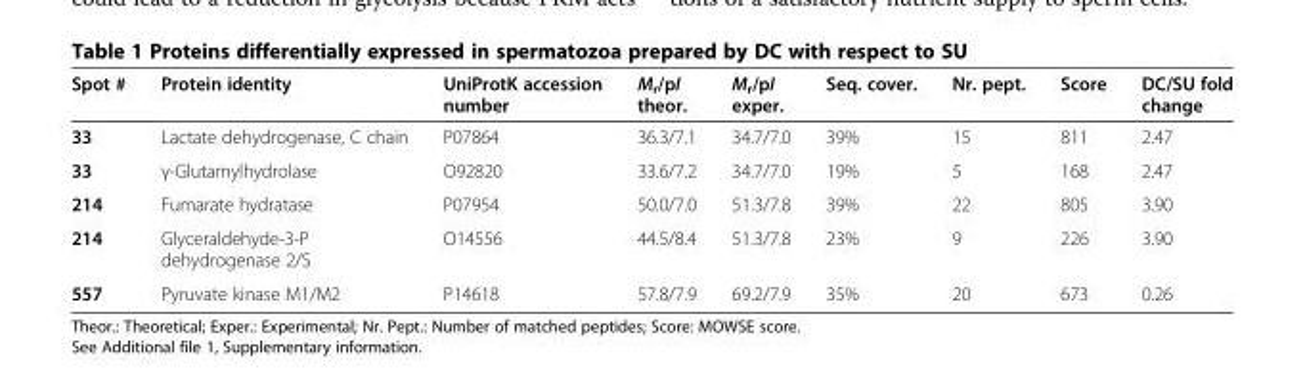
<table><thead><tr><td>Spot #</td><td>Protein identity</td><td>UniProtK accession number</td><td>M<sub>r</sub>/pI theor.</td><td>M<sub>r</sub>/pI exper.</td><td>Seq. cover.</td><td>Nr. pept.</td><td>Score</td><td>DC/SU fold change</td></tr></thead><tbody><tr><td>33</td><td>Lactate dehydrogenase, C chain</td><td>P07864</td><td>36.3/7.1</td><td>34.7/7.0</td><td>39%</td><td>15</td><td>811</td><td>2.47</td></tr><tr><td>33</td><td>γ-Glutamylhydrolase</td><td>O92820</td><td>33.6/7.2</td><td>34.7/7.0</td><td>19%</td><td>5</td><td>168</td><td>2.47</td></tr><tr><td>214</td><td>Fumarate hydratase</td><td>P07954</td><td>50.0/7.0</td><td>51.3/7.8</td><td>39%</td><td>22</td><td>805</td><td>3.90</td></tr><tr><td>214</td><td>Glyceraldehyde-3-P dehydrogenase 2/S</td><td>O14556</td><td>44.5/8.4</td><td>51.3/7.8</td><td>23%</td><td>9</td><td>226</td><td>3.90</td></tr><tr><td>557</td><td>Pyruvate kinase M1/M2</td><td>P14618</td><td>57.8/7.9</td><td>69.2/7.9</td><td>35%</td><td>20</td><td>673</td><td>0.26</td></tr></tbody></table>